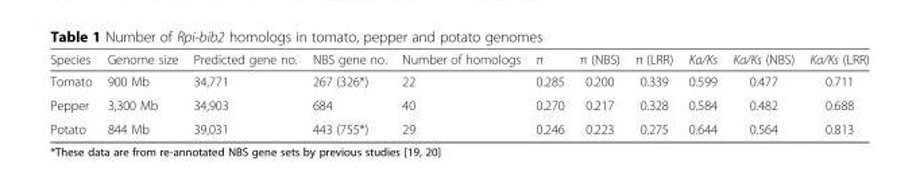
<table><thead><tr><td>Species</td><td>Genome size</td><td>Predicted gene no.</td><td>NBS gene no.</td><td>Number of homologs</td><td>π</td><td>π (NBS)</td><td>π (LRR)</td><td>Ka/Ks</td><td>Ka/Ks (NBS)</td><td>Ka/Ks (LRR)</td></tr></thead><tbody><tr><td>Tomato</td><td>900 Mb</td><td>34,771</td><td>267 (326*)</td><td>22</td><td>0.285</td><td>0.200</td><td>0.339</td><td>0.599</td><td>0.477</td><td>0.711</td></tr><tr><td>Pepper</td><td>3,300 Mb</td><td>34,903</td><td>684</td><td>40</td><td>0.270</td><td>0.217</td><td>0.328</td><td>0.584</td><td>0.482</td><td>0.688</td></tr><tr><td>Potato</td><td>844 Mb</td><td>39,031</td><td>443 (755*)</td><td>29</td><td>0.246</td><td>0.223</td><td>0.275</td><td>0.644</td><td>0.564</td><td>0.813</td></tr></tbody></table>